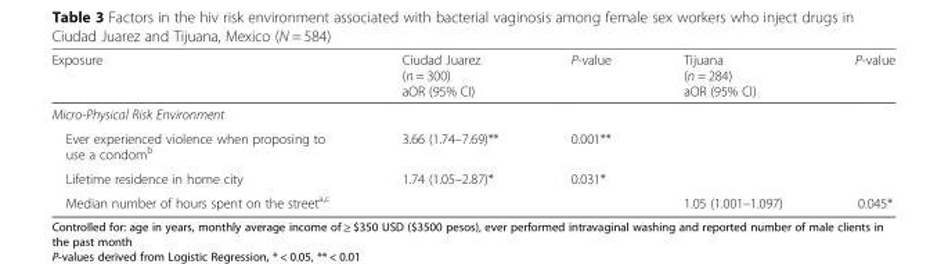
<table><thead><tr><td>Exposure</td><td>Ciudad Juarez (n = 300) aOR (95% CI)</td><td>P-value</td><td>Tijuana (n = 284) aOR (95% CI)</td><td>P-value</td></tr></thead><tbody><tr><td colspan="5">Micro-Physical Risk Environment</td></tr><tr><td>Ever experienced violence when proposing to use a condom<sup>b</sup></td><td>3.66 (1.74–7.69)**</td><td>0.001**</td><td></td><td></td></tr><tr><td>Lifetime residence in home city</td><td>1.74 (1.05–2.87)*</td><td>0.031*</td><td></td><td></td></tr><tr><td>Median number of hours spent on the street<sup>a,c</sup></td><td></td><td></td><td>1.05 (1.001–1.097)</td><td>0.045*</td></tr></tbody></table>